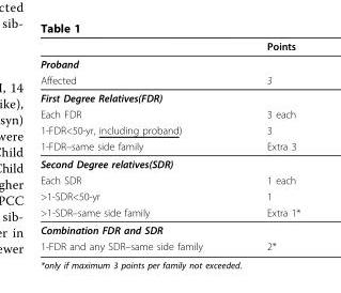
<table><thead><tr><td></td><td>Points</td></tr></thead><tbody><tr><td colspan="2">Proband</td></tr><tr><td>Affected</td><td>3</td></tr><tr><td colspan="2">First Degree Relatives(FDR)</td></tr><tr><td>Each FDR</td><td>3 each</td></tr><tr><td>1-FDR&lt;50-yr, including proband)</td><td>3</td></tr><tr><td>1-FDR–same side family</td><td>Extra 3</td></tr><tr><td colspan="2">Second Degree relatives(SDR)</td></tr><tr><td>Each SDR</td><td>1 each</td></tr><tr><td>&gt;1-SDR&lt;50-yr</td><td>1</td></tr><tr><td>&gt;1-SDR–same side family</td><td>Extra 1*</td></tr><tr><td colspan="2">Combination FDR and SDR</td></tr><tr><td>1-FDR and any SDR–same side family</td><td>2*</td></tr></tbody></table>